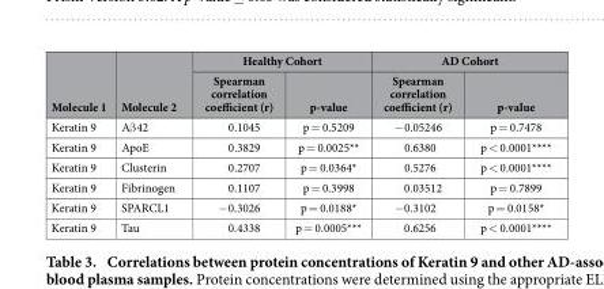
<table><thead><tr><td rowspan="2">Molecule 1</td><td rowspan="2">Molecule 2</td><td colspan="2">Healthy Cohort</td><td colspan="2">AD Cohort</td></tr><tr><td>Spearman correlation coefficient (r)</td><td>p-value</td><td>Spearman correlation coefficient (r)</td><td>p-value</td></tr></thead><tbody><tr><td>Keratin 9</td><td>Aβ 42</td><td>0.1045</td><td>p = 0.5209</td><td>− 0.05246</td><td>p = 0.7478</td></tr><tr><td>Keratin 9</td><td>ApoE</td><td>0.3829</td><td>p = 0.0025**</td><td>0.6380</td><td>p &lt; 0.0001****</td></tr><tr><td>Keratin 9</td><td>Clusterin</td><td>0.2707</td><td>p = 0.0364*</td><td>0.5276</td><td>p &lt; 0.0001****</td></tr><tr><td>Keratin 9</td><td>Fibrinogen</td><td>0.1107</td><td>p = 0.3998</td><td>0.03512</td><td>p = 0.7899</td></tr><tr><td>Keratin 9</td><td>SPARCL1</td><td>− 0.3026</td><td>p = 0.0188*</td><td>−0.3102</td><td>p = 0.0158*</td></tr><tr><td>Keratin 9</td><td>Tau</td><td>0.4338</td><td>p = 0.0005***</td><td>0.6256</td><td>p &lt; 0.0001****</td></tr></tbody></table>